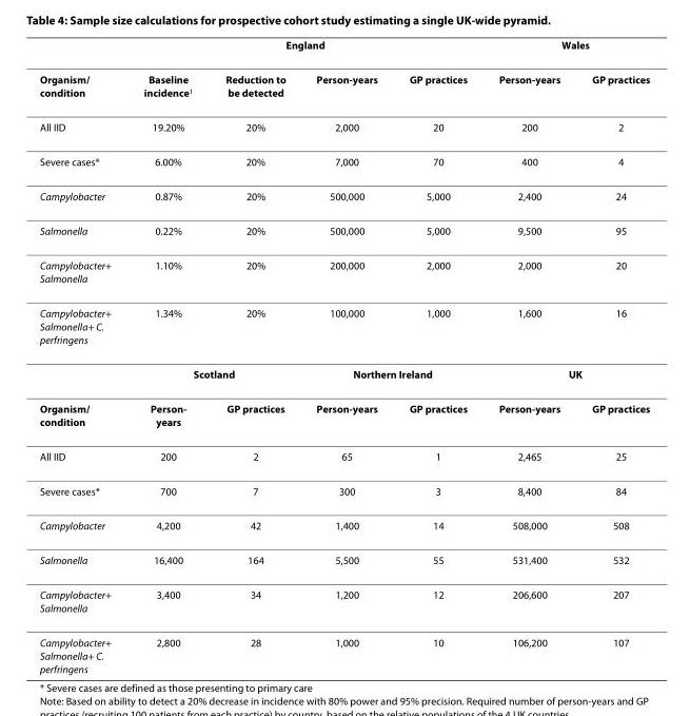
<table><thead><tr><td rowspan="2">Organism/ condition</td><td colspan="4">England</td><td colspan="2">Wales</td></tr><tr><td>Baseline incidence<sup>1</sup></td><td>Reduction to be detected</td><td>Person-years</td><td>GP practices</td><td>Person-years</td><td>GP practices</td></tr></thead><tbody><tr><td>All IID</td><td>19.20%</td><td>20%</td><td>2,000</td><td>20</td><td>200</td><td>2</td></tr><tr><td>Severe cases*</td><td>6.00%</td><td>20%</td><td>7,000</td><td>70</td><td>400</td><td>4</td></tr><tr><td>Campylobacter</td><td>0.87%</td><td>20%</td><td>500,000</td><td>5,000</td><td>2,400</td><td>24</td></tr><tr><td>Salmonella</td><td>0.22%</td><td>20%</td><td>500,000</td><td>5,000</td><td>9,500</td><td>95</td></tr><tr><td>Campylobacter+ Salmonella</td><td>1.10%</td><td>20%</td><td>200,000</td><td>2,000</td><td>2,000</td><td>20</td></tr><tr><td rowspan="2">Campylobacter+ Salmonella+ C. perfringens</td><td>1.34%</td><td>20%</td><td>100,000</td><td>1,000</td><td>1,600</td><td>16</td></tr><tr><td colspan="2">Scotland</td><td colspan="2">Northern Ireland</td><td colspan="2">UK</td></tr><tr><td>Organism/ condition</td><td>Person- years</td><td>GP practices</td><td>Person-years</td><td>GP practices</td><td>Person-years</td><td>GP practices</td></tr><tr><td>All IID</td><td>200</td><td>2</td><td>65</td><td>1</td><td>2,465</td><td>25</td></tr><tr><td>Severe cases*</td><td>700</td><td>7</td><td>300</td><td>3</td><td>8,400</td><td>84</td></tr><tr><td>Campylobacter</td><td>4,200</td><td>42</td><td>1,400</td><td>14</td><td>508,000</td><td>508</td></tr><tr><td>Salmonella</td><td>16,400</td><td>164</td><td>5,500</td><td>55</td><td>531,400</td><td>532</td></tr><tr><td>Campylobacter+ Salmonella</td><td>3,400</td><td>34</td><td>1,200</td><td>12</td><td>206,600</td><td>207</td></tr><tr><td>Campylobacter+ Salmonella+ C. perfringens</td><td>2,800</td><td>28</td><td>1,000</td><td>10</td><td>106,200</td><td>107</td></tr></tbody></table>